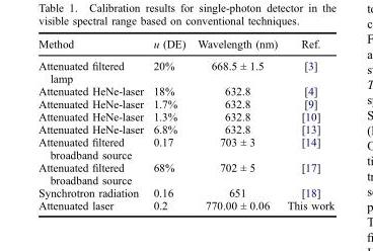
<table><thead><tr><td>Method</td><td>u (DE)</td><td>Wavelength (nm)</td><td>Ref.</td></tr></thead><tbody><tr><td>Attenuated filtered lamp</td><td>20%</td><td>668.5 ± 1.5</td><td>[3]</td></tr><tr><td>Attenuated HeNe-laser</td><td>18%</td><td>632.8</td><td>[4]</td></tr><tr><td>Attenuated HeNe-laser</td><td>1.7%</td><td>632.8</td><td>[9]</td></tr><tr><td>Attenuated HeNe-laser</td><td>1.3%</td><td>632.8</td><td>[10]</td></tr><tr><td>Attenuated HeNe-laser</td><td>6.8%</td><td>632.8</td><td>[13]</td></tr><tr><td>Attenuated filtered broadband source</td><td>0.17</td><td>703 ± 3</td><td>[14]</td></tr><tr><td>Attenuated filtered broadband source</td><td>68%</td><td>702 ± 5</td><td>[17]</td></tr><tr><td>Synchrotron radiation</td><td>0.16</td><td>651</td><td>[18]</td></tr><tr><td>Attenuated laser</td><td>0.2</td><td>770.00 ± 0.06</td><td>This work</td></tr></tbody></table>